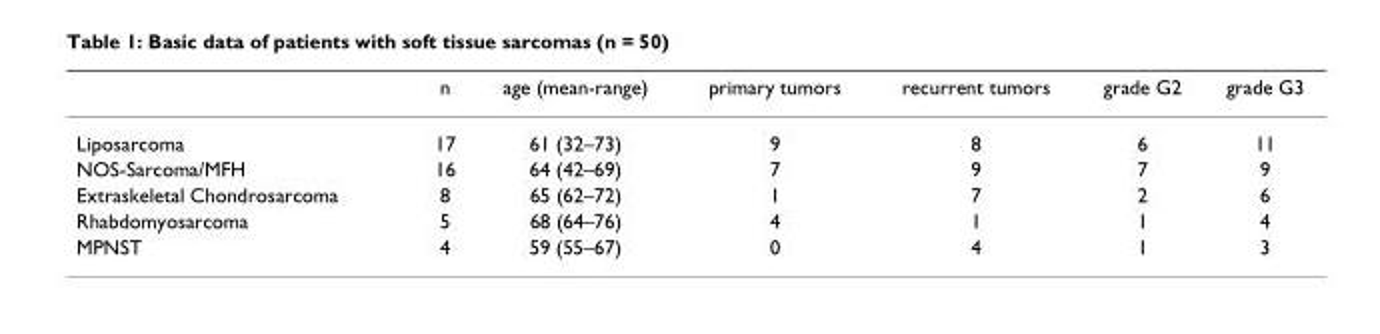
<table><thead><tr><td></td><td>n</td><td>age (mean-range)</td><td>primary tumors</td><td>recurrent tumors</td><td>grade G2</td><td>grade G3</td></tr></thead><tbody><tr><td>Liposarcoma</td><td>17</td><td>61 (32–73)</td><td>9</td><td>8</td><td>6</td><td>11</td></tr><tr><td>NOS-Sarcoma/MFH</td><td>16</td><td>64 (42–69)</td><td>7</td><td>9</td><td>7</td><td>9</td></tr><tr><td>Extraskeletal Chondrosarcoma</td><td>8</td><td>65 (62–72)</td><td>1</td><td>7</td><td>2</td><td>6</td></tr><tr><td>Rhabdomyosarcoma</td><td>5</td><td>68 (64–76)</td><td>4</td><td>1</td><td>1</td><td>4</td></tr><tr><td>MPNST</td><td>4</td><td>59 (55–67)</td><td>0</td><td>4</td><td>1</td><td>3</td></tr></tbody></table>